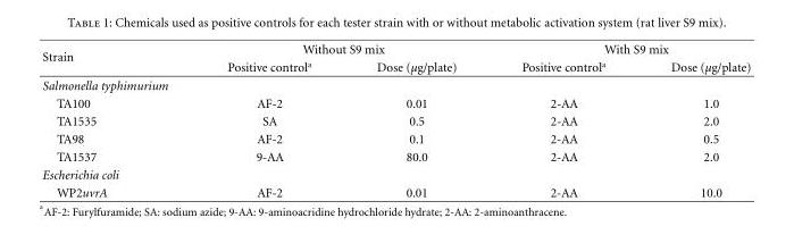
<table><thead><tr><td rowspan="2">Strain</td><td colspan="2">Without S9 mix</td><td colspan="2">With S9 mix</td></tr><tr><td>Positive control<sup>a</sup></td><td>Dose (µg/plate)</td><td>Positive control<sup>a</sup></td><td>Dose (µg/plate)</td></tr></thead><tbody><tr><td colspan="5">Salmonella typhimurium</td></tr><tr><td>TA100</td><td>AF-2</td><td>0.01</td><td>2-AA</td><td>1.0</td></tr><tr><td>TA1535</td><td>SA</td><td>0.5</td><td>2-AA</td><td>2.0</td></tr><tr><td>TA98</td><td>AF-2</td><td>0.1</td><td>2-AA</td><td>0.5</td></tr><tr><td>TA1537</td><td>9-AA</td><td>80.0</td><td>2-AA</td><td>2.0</td></tr><tr><td colspan="5">Escherichia coli</td></tr><tr><td>WP2uvrA</td><td>AF-2</td><td>0.01</td><td>2-AA</td><td>10.0</td></tr></tbody></table>